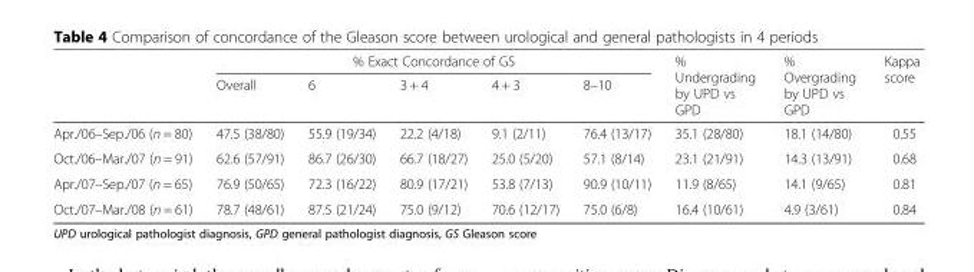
<table><thead><tr><td rowspan="2"></td><td colspan="5">% Exact Concordance of GS</td><td rowspan="2">% Undergrading by UPD vs GPD</td><td rowspan="2">% Overgrading by UPD vs GPD</td><td rowspan="2">Kappa score</td></tr><tr><td>Overall</td><td>6</td><td>3 + 4</td><td>4 + 3</td><td>8–10</td></tr></thead><tbody><tr><td>Apr./06–Sep./06 (n = 80)</td><td>47.5 (38/80)</td><td>55.9 (19/34)</td><td>22.2 (4/18)</td><td>9.1 (2/11)</td><td>76.4 (13/17)</td><td>35.1 (28/80)</td><td>18.1 (14/80)</td><td>0.55</td></tr><tr><td>Oct./06–Mar./07 (n = 91)</td><td>62.6 (57/91)</td><td>86.7 (26/30)</td><td>66.7 (18/27)</td><td>25.0 (5/20)</td><td>57.1 (8/14)</td><td>23.1 (21/91)</td><td>14.3 (13/91)</td><td>0.68</td></tr><tr><td>Apr./07–Sep./07 (n = 65)</td><td>76.9 (50/65)</td><td>72.3 (16/22)</td><td>80.9 (17/21)</td><td>53.8 (7/13)</td><td>90.9 (10/11)</td><td>11.9 (8/65)</td><td>14.1 (9/65)</td><td>0.81</td></tr><tr><td>Oct./07–Mar./08 (n = 61)</td><td>78.7 (48/61)</td><td>87.5 (21/24)</td><td>75.0 (9/12)</td><td>70.6 (12/17)</td><td>75.0 (6/8)</td><td>16.4 (10/61)</td><td>4.9 (3/61)</td><td>0.84</td></tr></tbody></table>